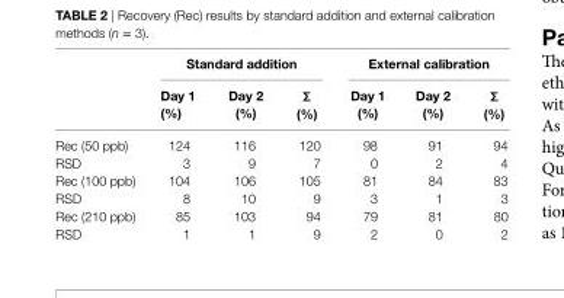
<table><thead><tr><td rowspan="2"></td><td colspan="3">standard addition</td><td colspan="3">external calibration</td></tr><tr><td>Day 1 (%)</td><td>Day 2 (%)</td><td>𝝨 (%)</td><td>Day 1 (%)</td><td>Day 2 (%)</td><td>𝝨 (%)</td></tr></thead><tbody><tr><td>Rec (50 ppb)</td><td>124</td><td>116</td><td>120</td><td>98</td><td>91</td><td>94</td></tr><tr><td>RSD</td><td>3</td><td>9</td><td>7</td><td>0</td><td>2</td><td>4</td></tr><tr><td>Rec (100 ppb)</td><td>104</td><td>106</td><td>105</td><td>81</td><td>84</td><td>83</td></tr><tr><td>RSD</td><td>8</td><td>10</td><td>9</td><td>3</td><td>1</td><td>3</td></tr><tr><td>Rec (210 ppb)</td><td>85</td><td>103</td><td>94</td><td>79</td><td>81</td><td>80</td></tr><tr><td>RSD</td><td>1</td><td>1</td><td>9</td><td>2</td><td>0</td><td>2</td></tr></tbody></table>